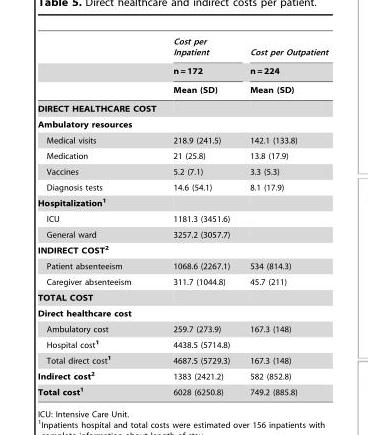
<table><thead><tr><td rowspan="3"></td><td rowspan="3">Cost per Inpatient n = 172 Mean (SD)</td><td rowspan="3">Cost per Outpatient n = 224 Mean (SD)</td></tr><tr></tr><tr></tr></thead><tbody><tr><td colspan="3">DIRECT HEALTHCARE COST</td></tr><tr><td colspan="3">Ambulatory resources</td></tr><tr><td>Medical visits</td><td>218.9 (241.5)</td><td>142.1 (133.8)</td></tr><tr><td>Medication</td><td>21 (25.8)</td><td>13.8 (17.9)</td></tr><tr><td>Vaccines</td><td>5.2 (7.1)</td><td>3.3 (5.3)</td></tr><tr><td>Diagnosis tests</td><td>14.6 (54.1)</td><td>8.1 (17.9)</td></tr><tr><td colspan="3">Hospitalization1</td></tr><tr><td>ICU</td><td>1181.3 (3451.6)</td><td></td></tr><tr><td>General ward</td><td>3257.2 (3057.7)</td><td></td></tr><tr><td colspan="3">INDIRECT COST2</td></tr><tr><td>Patient absenteeism</td><td>1068.6 (2267.1)</td><td>534 (814.3)</td></tr><tr><td>Caregiver absenteeism</td><td>311.7 (1044.8)</td><td>45.7 (211)</td></tr><tr><td colspan="3">TOTAL COST</td></tr><tr><td colspan="3">Direct healthcare cost</td></tr><tr><td>Ambulatory cost</td><td>259.7 (273.9)</td><td>167.3 (148)</td></tr><tr><td>Hospital cost<sup>1</sup></td><td>4438.5 (5714.8)</td><td></td></tr><tr><td>Total direct cost<sup>1</sup></td><td>4687.5 (5729.3)</td><td>167.3 (148)</td></tr><tr><td>Indirect cost2</td><td>1383 (2421.2)</td><td>582 (852.8)</td></tr><tr><td>Total cost1</td><td>6028 (6250.8)</td><td>749.2 (885.8)</td></tr></tbody></table>